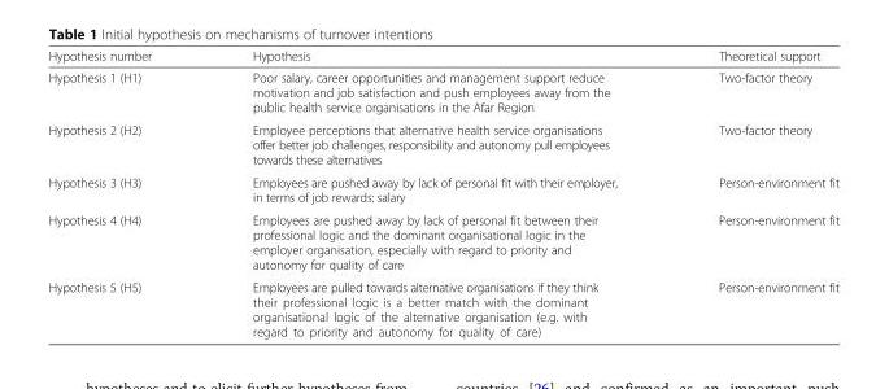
<table><thead><tr><td>Hypothesis number</td><td>Hypothesis</td><td>Theoretical support</td></tr></thead><tbody><tr><td>Hypothesis 1 (H1)</td><td>Poor salary, career opportunities and management support reduce motivation and job satisfaction and push employees away from the public health service organisations in the Afar Region</td><td>Two-factor theory</td></tr><tr><td>Hypothesis 2 (H2)</td><td>Employee perceptions that alternative health service organisations offer better job challenges, responsibility and autonomy pull employees towards these alternatives</td><td>Two-factor theory</td></tr><tr><td>Hypothesis 3 (H3)</td><td>Employees are pushed away by lack of personal fit with their employer, in terms of job rewards: salary</td><td>Person-environment fit</td></tr><tr><td>Hypothesis 4 (H4)</td><td>Employees are pushed away by lack of personal fit between their professional logic and the dominant organisational logic in the employer organisation, especially with regard to priority and autonomy for quality of care</td><td>Person-environment fit</td></tr><tr><td>Hypothesis 5 (H5)</td><td>Employees are pulled towards alternative organisations if they think their professional logic is a better match with the dominant organisational logic of the alternative organisation (e.g. with regard to priority and autonomy for quality of care)</td><td>Person-environment fit</td></tr></tbody></table>